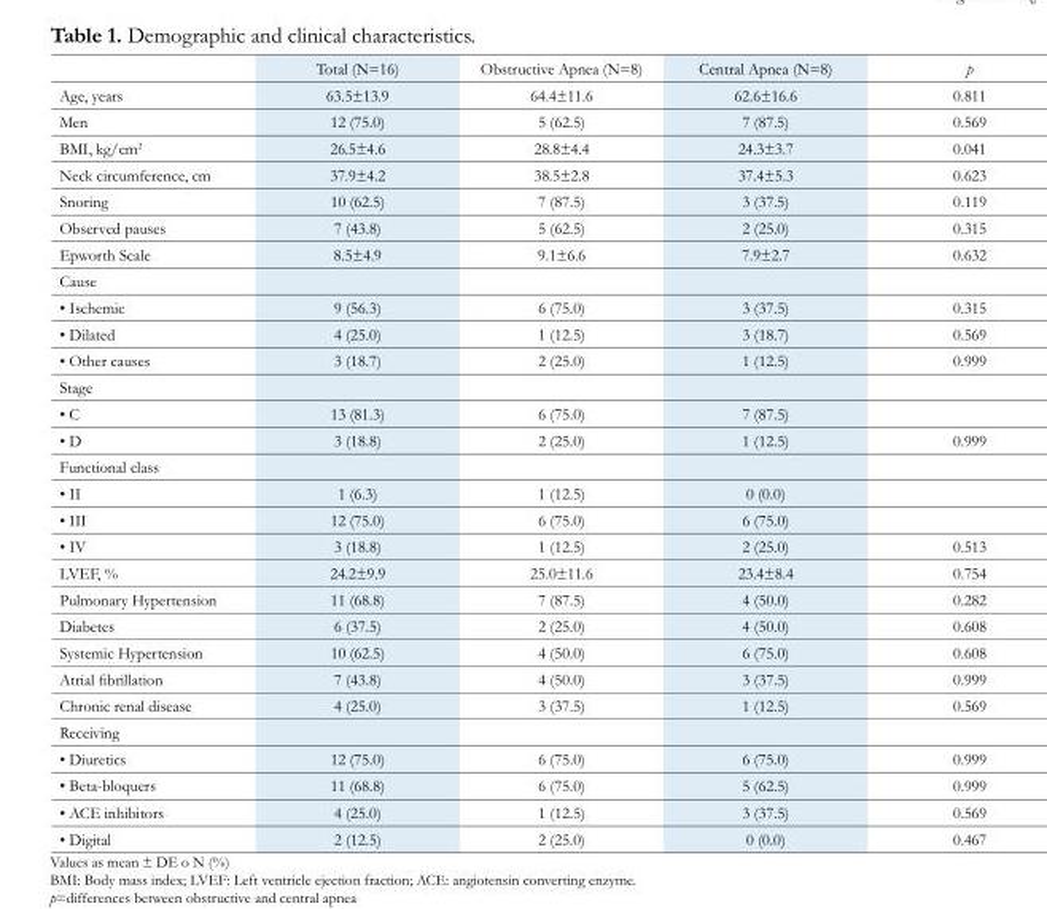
<table><thead><tr><td></td><td>Total (N=16)</td><td>Obstructive Apnea (N=8)</td><td>Central Apnea (N=8)</td><td>p</td></tr></thead><tbody><tr><td>Age, years</td><td>63.5±13.9</td><td>64.4±11.6</td><td>62.6±16.6</td><td>0.811</td></tr><tr><td>Men</td><td>12 (75.0)</td><td>5 (62.5)</td><td>7 (87.5)</td><td>0.569</td></tr><tr><td>BMI, kg/cm<sup>2</sup></td><td>26.5±4.6</td><td>28.8±4.4</td><td>24.3±3.7</td><td>0.041</td></tr><tr><td>Neck circumference, cm</td><td>37.9±4.2</td><td>38.5±2.8</td><td>37.4±5.3</td><td>0.623</td></tr><tr><td>Snoring</td><td>10 (62.5)</td><td>7 (87.5)</td><td>3 (37.5)</td><td>0.119</td></tr><tr><td>Observed pauses</td><td>7 (43.8)</td><td>5 (62.5)</td><td>2 (25.0)</td><td>0.315</td></tr><tr><td>Epworth Scale</td><td>8.5±4.9</td><td>9.1±6.6</td><td>7.9±2.7</td><td>0.632</td></tr><tr><td colspan="5">Cause</td></tr><tr><td>• Ischemic</td><td>9 (56.3)</td><td>6 (75.0)</td><td>3 (37.5)</td><td>0.315</td></tr><tr><td>• Dilated</td><td>4 (25.0)</td><td>1 (12.5)</td><td>3 (18.7)</td><td>0.569</td></tr><tr><td>• Other causes</td><td>3 (18.7)</td><td>2 (25.0)</td><td>1 (12.5)</td><td>0.999</td></tr><tr><td colspan="5">Stage</td></tr><tr><td>• C</td><td>13 (81.3)</td><td>6 (75.0)</td><td>7 (87.5)</td><td></td></tr><tr><td>• D</td><td>3 (18.8)</td><td>2 (25.0)</td><td>1 (12.5)</td><td>0.999</td></tr><tr><td colspan="5">Functional class</td></tr><tr><td>• II</td><td>1 (6.3)</td><td>1 (12.5)</td><td>0 (0.0)</td><td></td></tr><tr><td>• III</td><td>12 (75.0)</td><td>6 (75.0)</td><td>6 (75.0)</td><td></td></tr><tr><td>• IV</td><td>3 (18.8)</td><td>1 (12.5)</td><td>2 (25.0)</td><td>0.513</td></tr><tr><td>LVEF, %</td><td>24.2±9.9</td><td>25.0±11.6</td><td>23.4±8.4</td><td>0.754</td></tr><tr><td>Pulmonary Hypertension</td><td>11 (68.8)</td><td>7 (87.5)</td><td>4 (50.0)</td><td>0.282</td></tr><tr><td>Diabetes</td><td>6 (37.5)</td><td>2 (25.0)</td><td>4 (50.0)</td><td>0.608</td></tr><tr><td>Systemic Hypertension</td><td>10 (62.5)</td><td>4 (50.0)</td><td>6 (75.0)</td><td>0.608</td></tr><tr><td>Atrial fibrillation</td><td>7 (43.8)</td><td>4 (50.0)</td><td>3 (37.5)</td><td>0.999</td></tr><tr><td>Chronic renal disease</td><td>4 (25.0)</td><td>3 (37.5)</td><td>1 (12.5)</td><td>0.569</td></tr><tr><td colspan="5">Receiving</td></tr><tr><td>• Diuretics</td><td>12 (75.0)</td><td>6 (75.0)</td><td>6 (75.0)</td><td>0.999</td></tr><tr><td>• Beta-bloquers</td><td>11 (68.8)</td><td>6 (75.0)</td><td>5 (62.5)</td><td>0.999</td></tr><tr><td>• ACE inhibitors</td><td>4 (25.0)</td><td>1 (12.5)</td><td>3 (37.5)</td><td>0.569</td></tr><tr><td>• Digital</td><td>2 (12.5)</td><td>2 (25.0)</td><td>0 (0.0)</td><td>0.467</td></tr></tbody></table>